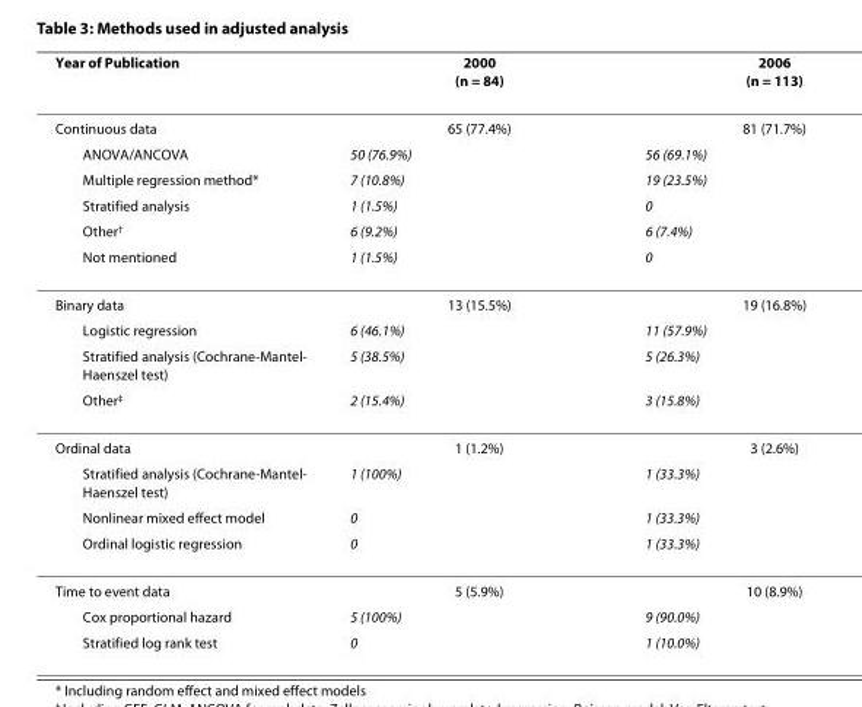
<table><thead><tr><td>Year of Publication</td><td>2000 (n = 84)</td><td>2006 (n = 113)</td></tr></thead><tbody><tr><td>Continuous data</td><td>65 (77.4%)</td><td>81 (71.7%)</td></tr><tr><td>ANOVA/ANCOVA</td><td>50 (76.9%)</td><td>56 (69.1%)</td></tr><tr><td>Multiple regression method*</td><td>7 (10.8%)</td><td>19 (23.5%)</td></tr><tr><td>Stratified analysis</td><td>1 (1.5%)</td><td>0</td></tr><tr><td>Other<sup>†</sup></td><td>6 (9.2%)</td><td>6 (7.4%)</td></tr><tr><td>Not mentioned</td><td>1 (1.5%)</td><td>0</td></tr><tr><td>Binary data</td><td>13 (15.5%)</td><td>19 (16.8%)</td></tr><tr><td>Logistic regression</td><td>6 (46.1%)</td><td>11 (57.9%)</td></tr><tr><td>Stratified analysis (Cochrane-Mantel- Haenszel test)</td><td>5 (38.5%)</td><td>5 (26.3%)</td></tr><tr><td>Other<sup>‡</sup></td><td>2 (15.4%)</td><td>3 (15.8%)</td></tr><tr><td>Ordinal data</td><td>1 (1.2%)</td><td>3 (2.6%)</td></tr><tr><td>Stratified analysis (Cochrane-Mantel- Haenszel test)</td><td>1 (100%)</td><td>1 (33.3%)</td></tr><tr><td>Nonlinear mixed effect model</td><td>0</td><td>1 (33.3%)</td></tr><tr><td>Ordinal logistic regression</td><td>0</td><td>1 (33.3%)</td></tr><tr><td>Time to event data</td><td>5 (5.9%)</td><td>10 (8.9%)</td></tr><tr><td>Cox proportional hazard</td><td>5 (100%)</td><td>9 (90.0%)</td></tr><tr><td>Stratified log rank test</td><td>0</td><td>1 (10.0%)</td></tr></tbody></table>